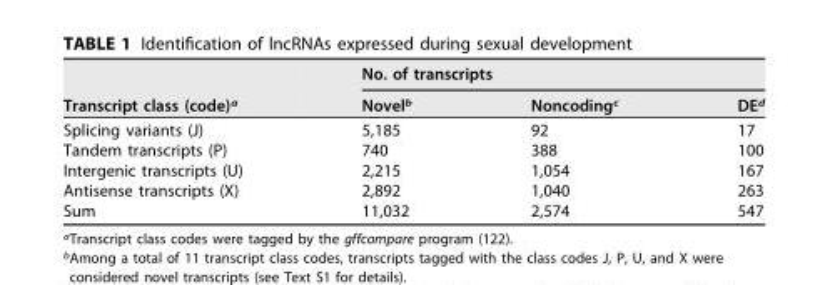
<table><thead><tr><td rowspan="2">Transcript class (code)<sup>a</sup></td><td colspan="3">No. of transcripts</td></tr><tr><td>Novel<sup>b</sup></td><td>Noncoding<sup>c</sup></td><td>DE<sup>d</sup></td></tr></thead><tbody><tr><td>Splicing variants (J)</td><td>5,185</td><td>92</td><td>17</td></tr><tr><td>Tandem transcripts (P)</td><td>740</td><td>388</td><td>100</td></tr><tr><td>Intergenic transcripts (U)</td><td>2,215</td><td>1,054</td><td>167</td></tr><tr><td>Antisense transcripts (X)</td><td>2,892</td><td>1,040</td><td>263</td></tr><tr><td>Sum</td><td>11,032</td><td>2,574</td><td>547</td></tr></tbody></table>